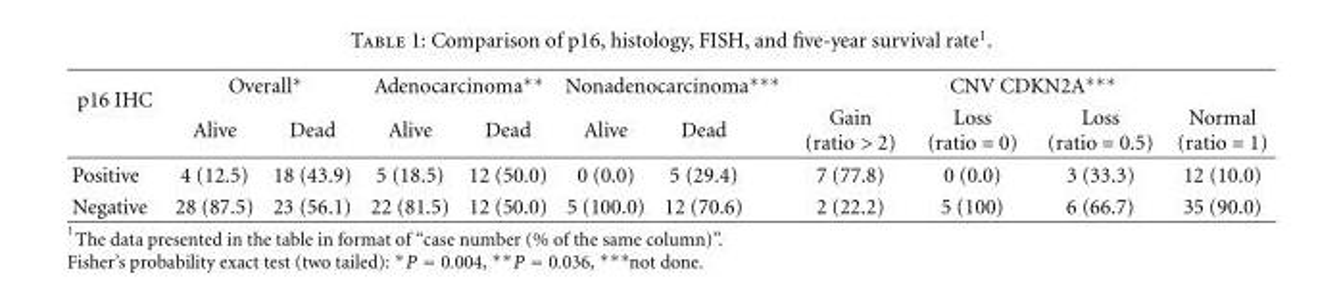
<table><thead><tr><td rowspan="2">p16 IHC</td><td colspan="2">Overall∗</td><td colspan="2">Adenocarcinoma∗∗</td><td colspan="2">Nonadenocarcinoma∗∗∗</td><td colspan="4">CNV CDKN2A∗∗∗</td></tr><tr><td>Alive</td><td>Dead</td><td>Alive</td><td>Dead</td><td>Alive</td><td>Dead</td><td>Gain (ratio &gt; 2)</td><td>Loss (ratio = 0)</td><td>Loss (ratio = 0.5)</td><td>Normal (ratio = 1)</td></tr></thead><tbody><tr><td>Positive</td><td>4 (12.5)</td><td>18 (43.9)</td><td>5 (18.5)</td><td>12 (50.0)</td><td>0 (0.0)</td><td>5 (29.4)</td><td>7 (77.8)</td><td>0 (0.0)</td><td>3 (33.3)</td><td>12 (10.0)</td></tr><tr><td>Negative</td><td>28 (87.5)</td><td>23 (56.1)</td><td>22 (81.5)</td><td>12 (50.0)</td><td>5 (100.0)</td><td>12 (70.6)</td><td>2 (22.2)</td><td>5 (100)</td><td>6 (66.7)</td><td>35 (90.0)</td></tr></tbody></table>